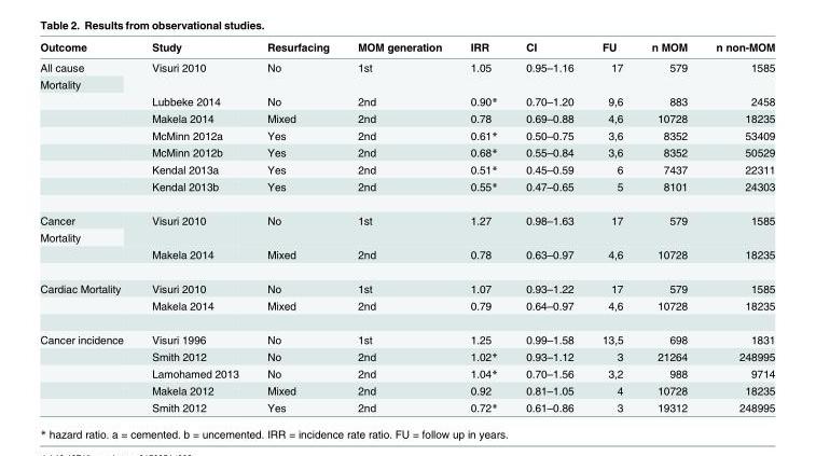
<table><thead><tr><td>Outcome</td><td>Study</td><td>Resurfacing</td><td>MOM generation</td><td>IRR</td><td>CI</td><td>FU</td><td>n MOM</td><td>n non-MOM</td></tr></thead><tbody><tr><td>All cause</td><td rowspan="2">Visuri 2010</td><td rowspan="2">No</td><td rowspan="2">1st</td><td rowspan="2">1.05</td><td rowspan="2">0.95–1.16</td><td rowspan="2">17</td><td rowspan="2">579</td><td rowspan="2">1585</td></tr><tr><td rowspan="7">Mortality</td></tr><tr><td>Lubbeke 2014</td><td>No</td><td>2nd</td><td>0.90*</td><td>0.70–1.20</td><td>9,6</td><td>883</td><td>2458</td></tr><tr><td>Makela 2014</td><td>Mixed</td><td>2nd</td><td>0.78</td><td>0.69–0.88</td><td>4,6</td><td>10728</td><td>18235</td></tr><tr><td>McMinn 2012a</td><td>Yes</td><td>2nd</td><td>0.61*</td><td>0.50–0.75</td><td>3,6</td><td>8352</td><td>53409</td></tr><tr><td>McMinn 2012b</td><td>Yes</td><td>2nd</td><td>0.68*</td><td>0.55–0.84</td><td>3,6</td><td>8352</td><td>50529</td></tr><tr><td>Kendal 2013a</td><td>Yes</td><td>2nd</td><td>0.51*</td><td>0.45–0.59</td><td>6</td><td>7437</td><td>22311</td></tr><tr><td>Kendal 2013b</td><td>Yes</td><td>2nd</td><td>0.55*</td><td>0.47–0.65</td><td>5</td><td>8101</td><td>24303</td></tr><tr><td>Cancer</td><td rowspan="2">Visuri 2010</td><td rowspan="2">No</td><td rowspan="2">1st</td><td rowspan="2">1.27</td><td rowspan="2">0.98–1.63</td><td rowspan="2">17</td><td rowspan="2">579</td><td rowspan="2">1585</td></tr><tr><td rowspan="2">Mortality</td></tr><tr><td>Makela 2014</td><td>Mixed</td><td>2nd</td><td>0.78</td><td>0.63–0.97</td><td>4,6</td><td>10728</td><td>18235</td></tr><tr><td rowspan="2">Cardiac Mortality</td><td>Visuri 2010</td><td>No</td><td>1st</td><td>1.07</td><td>0.93–1.22</td><td>17</td><td>579</td><td>1585</td></tr><tr><td>Makela 2014</td><td>Mixed</td><td>2nd</td><td>0.79</td><td>0.64–0.97</td><td>4,6</td><td>10728</td><td>18235</td></tr><tr><td rowspan="5">Cancer incidence</td><td>Visuri 1996</td><td>No</td><td>1st</td><td>1.25</td><td>0.99–1.58</td><td>13,5</td><td>698</td><td>1831</td></tr><tr><td>Smith 2012</td><td>No</td><td>2nd</td><td>1.02*</td><td>0.93–1.12</td><td>3</td><td>21264</td><td>248995</td></tr><tr><td>Lamohamed 2013</td><td>No</td><td>2nd</td><td>1.04*</td><td>0.70–1.56</td><td>3,2</td><td>988</td><td>9714</td></tr><tr><td>Makela 2012</td><td>Mixed</td><td>2nd</td><td>0.92</td><td>0.81–1.05</td><td>4</td><td>10728</td><td>18235</td></tr><tr><td>Smith 2012</td><td>Yes</td><td>2nd</td><td>0.72*</td><td>0.61–0.86</td><td>3</td><td>19312</td><td>248995</td></tr></tbody></table>